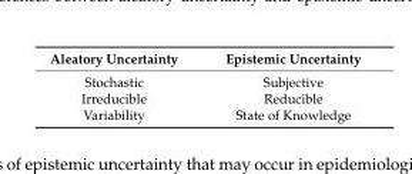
<table><thead><tr><td>Aleatory Uncertainty</td><td>Epistemic Uncertainty</td></tr></thead><tbody><tr><td>Stochastic</td><td>Subjective</td></tr><tr><td>Irreducible</td><td>Reducible</td></tr><tr><td>Variability</td><td>State of Knowledge</td></tr></tbody></table>